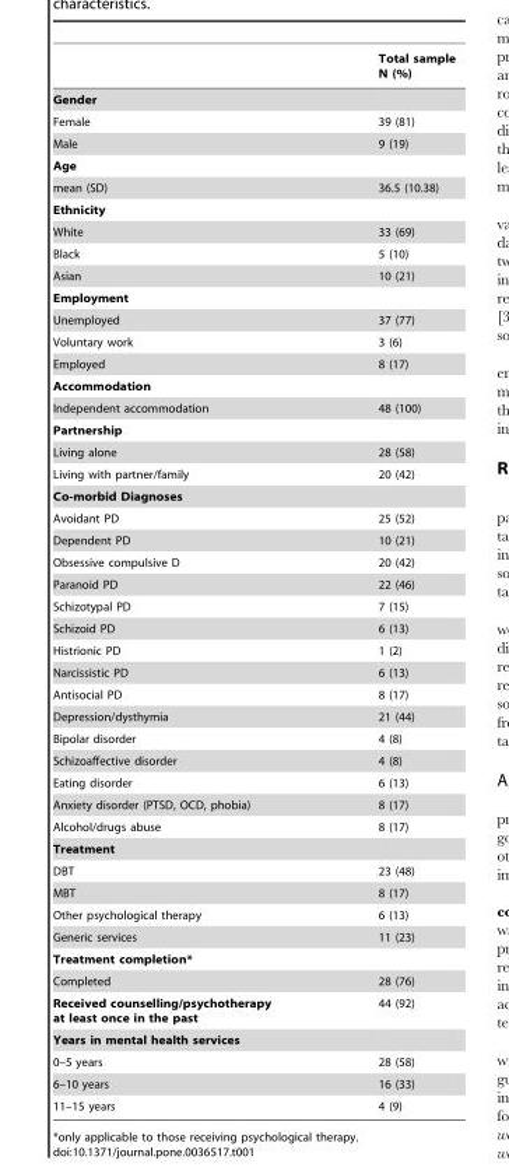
<table><thead><tr><td></td><td>Total sample N (%)</td></tr></thead><tbody><tr><td colspan="2">Gender</td></tr><tr><td>Female</td><td>39 (81)</td></tr><tr><td>Male</td><td>9 (19)</td></tr><tr><td colspan="2">Age</td></tr><tr><td>mean (SD)</td><td>36.5 (10.38)</td></tr><tr><td colspan="2">Ethnicity</td></tr><tr><td>White</td><td>33 (69)</td></tr><tr><td>Black</td><td>5 (10)</td></tr><tr><td>Asian</td><td>10 (21)</td></tr><tr><td colspan="2">Employment</td></tr><tr><td>Unemployed</td><td>37 (77)</td></tr><tr><td>Voluntary work</td><td>3 (6)</td></tr><tr><td>Employed</td><td>8 (17)</td></tr><tr><td colspan="2">Accommodation</td></tr><tr><td>Independent accommodation</td><td>48 (100)</td></tr><tr><td colspan="2">Partnership</td></tr><tr><td>Living alone</td><td>28 (58)</td></tr><tr><td>Living with partner/family</td><td>20 (42)</td></tr><tr><td colspan="2">Co-morbid Diagnoses</td></tr><tr><td>Avoidant PD</td><td>25 (52)</td></tr><tr><td>Dependent PD</td><td>10 (21)</td></tr><tr><td>Obsessive compulsive D</td><td>20 (42)</td></tr><tr><td>Paranoid PD</td><td>22 (46)</td></tr><tr><td>Schizotypal PD</td><td>7 (15)</td></tr><tr><td>Schizoid PD</td><td>6 (13)</td></tr><tr><td>Histrionic PD</td><td>1 (2)</td></tr><tr><td>Narcissistic PD</td><td>6 (13)</td></tr><tr><td>Antisocial PD</td><td>8 (17)</td></tr><tr><td>Depression/dysthymia</td><td>21 (44)</td></tr><tr><td>Bipolar disorder</td><td>4 (8)</td></tr><tr><td>Schizoaffective disorder</td><td>4 (8)</td></tr><tr><td>Eating disorder</td><td>6 (13)</td></tr><tr><td>Anxiety disorder (PTSD, OCD, phobia)</td><td>8 (17)</td></tr><tr><td>Alcohol/drugs abuse</td><td>8 (17)</td></tr><tr><td colspan="2">Treatment</td></tr><tr><td>DBT</td><td>23 (48)</td></tr><tr><td>MBT</td><td>8 (17)</td></tr><tr><td>Other psychological therapy</td><td>6 (13)</td></tr><tr><td>Generic services</td><td>11 (23)</td></tr><tr><td colspan="2">Treatment completion*</td></tr><tr><td>Completed</td><td>28 (76)</td></tr><tr><td>Received counselling/psychotherapy at least once in the past</td><td>44 (92)</td></tr><tr><td colspan="2">Years in mental health services</td></tr><tr><td>0–5 years</td><td>28 (58)</td></tr><tr><td>6–10 years</td><td>16 (33)</td></tr><tr><td>11–15 years</td><td>4 (9)</td></tr></tbody></table>